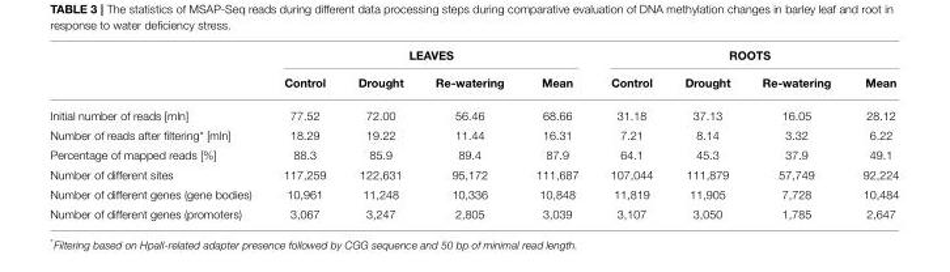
<table><thead><tr><td rowspan="2"></td><td colspan="4">LEAVES</td><td colspan="4">ROOTS</td></tr><tr><td>Control</td><td>Drought</td><td>Re-watering</td><td>Mean</td><td>Control</td><td>Drought</td><td>Re-watering</td><td>Mean</td></tr></thead><tbody><tr><td>Initial number of reads [mln]</td><td>77.52</td><td>72.00</td><td>56.46</td><td>68.66</td><td>31.18</td><td>37.13</td><td>16.05</td><td>28.12</td></tr><tr><td>Number of reads after filtering* [mln]</td><td>18.29</td><td>19.22</td><td>11.44</td><td>16.31</td><td>7.21</td><td>8.14</td><td>3.32</td><td>6.22</td></tr><tr><td>Percentage of mapped reads [%]</td><td>88.3</td><td>85.9</td><td>89.4</td><td>87.9</td><td>64.1</td><td>45.3</td><td>37.9</td><td>49.1</td></tr><tr><td>Number of different sites</td><td>117,259</td><td>122,631</td><td>95,172</td><td>111,687</td><td>107,044</td><td>111,879</td><td>57,749</td><td>92,224</td></tr><tr><td>Number of different genes (gene bodies)</td><td>10,961</td><td>11,248</td><td>10,336</td><td>10,848</td><td>11,819</td><td>11,905</td><td>7,728</td><td>10,484</td></tr><tr><td>Number of different genes (promoters)</td><td>3,067</td><td>3,247</td><td>2,805</td><td>3,039</td><td>3,107</td><td>3,050</td><td>1,785</td><td>2,647</td></tr></tbody></table>